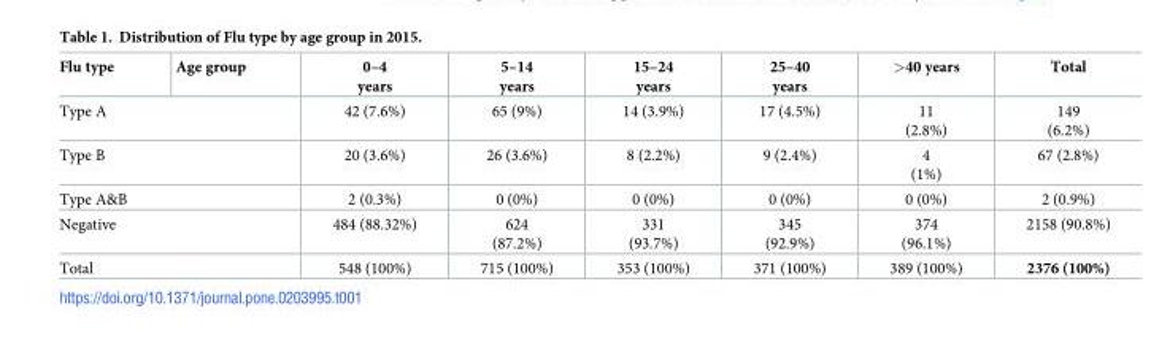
<table><thead><tr><td>Flu type</td><td>Age group</td><td>0–4 years</td><td>5–14 years</td><td>15–24 years</td><td>25–40 years</td><td>&gt;40 years</td><td>Total</td></tr></thead><tbody><tr><td colspan="2">Type A</td><td>42 (7.6%)</td><td>65 (9%)</td><td>14 (3.9%)</td><td>17 (4.5%)</td><td>11 (2.8%)</td><td>149 (6.2%)</td></tr><tr><td colspan="2">Type B</td><td>20 (3.6%)</td><td>26 (3.6%)</td><td>8 (2.2%)</td><td>9 (2.4%)</td><td>4 (1%)</td><td>67 (2.8%)</td></tr><tr><td colspan="2">Type A&amp;B</td><td>2 (0.3%)</td><td>0 (0%)</td><td>0 (0%)</td><td>0 (0%)</td><td>0 (0%)</td><td>2 (0.9%)</td></tr><tr><td colspan="2">Negative</td><td>484 (88.32%)</td><td>624 (87.2%)</td><td>331 (93.7%)</td><td>345 (92.9%)</td><td>374 (96.1%)</td><td>2158 (90.8%)</td></tr><tr><td colspan="2">Total</td><td>548 (100%)</td><td>715 (100%)</td><td>353 (100%)</td><td>371 (100%)</td><td>389 (100%)</td><td>2376 (100%)</td></tr></tbody></table>